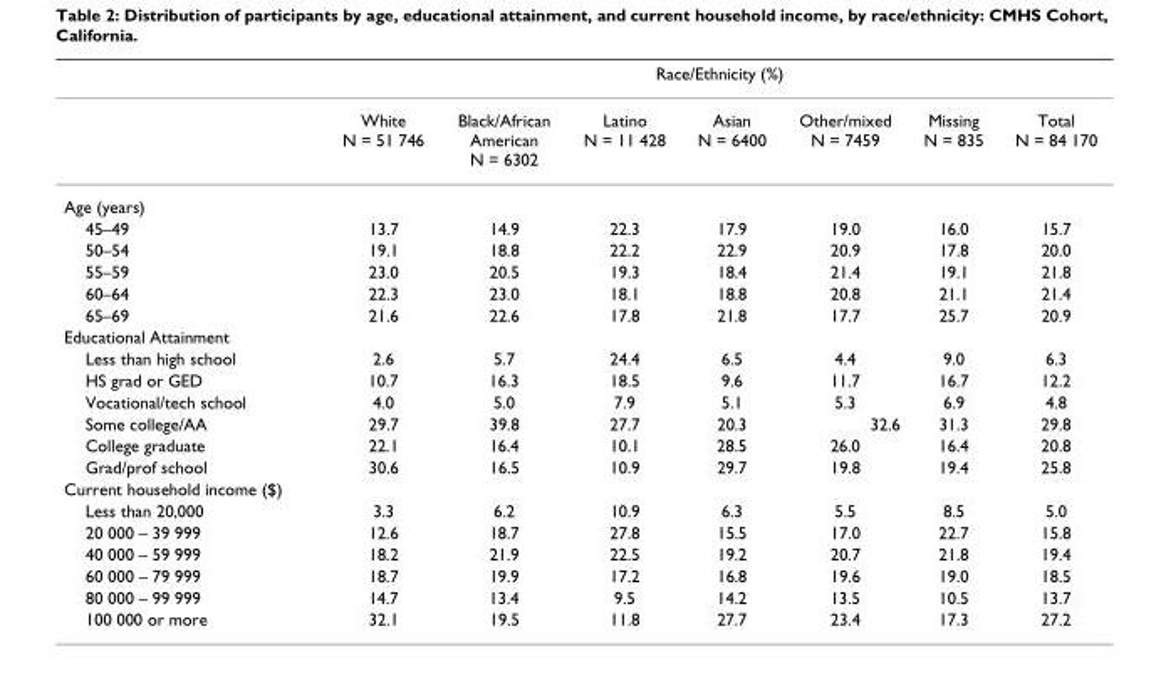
<table><thead><tr><td rowspan="2"></td><td colspan="7">Race/Ethnicity (%)</td></tr><tr><td>White N = 51 746</td><td>Black/African American N = 6302</td><td>Latino N = 11 428</td><td>Asian N = 6400</td><td>Other/mixed N = 7459</td><td>Missing N = 835</td><td>Total N = 84 170</td></tr></thead><tbody><tr><td colspan="8">Age (years)</td></tr><tr><td>45–49</td><td>13.7</td><td>14.9</td><td>22.3</td><td>17.9</td><td>19.0</td><td>16.0</td><td>15.7</td></tr><tr><td>50–54</td><td>19.1</td><td>18.8</td><td>22.2</td><td>22.9</td><td>20.9</td><td>17.8</td><td>20.0</td></tr><tr><td>55–59</td><td>23.0</td><td>20.5</td><td>19.3</td><td>18.4</td><td>21.4</td><td>19.1</td><td>21.8</td></tr><tr><td>60–64</td><td>22.3</td><td>23.0</td><td>18.1</td><td>18.8</td><td>20.8</td><td>21.1</td><td>21.4</td></tr><tr><td>65–69</td><td>21.6</td><td>22.6</td><td>17.8</td><td>21.8</td><td>17.7</td><td>25.7</td><td>20.9</td></tr><tr><td colspan="8">Educational Attainment</td></tr><tr><td>Less than high school</td><td>2.6</td><td>5.7</td><td>24.4</td><td>6.5</td><td>4.4</td><td>9.0</td><td>6.3</td></tr><tr><td>HS grad or GED</td><td>10.7</td><td>16.3</td><td>18.5</td><td>9.6</td><td>11.7</td><td>16.7</td><td>12.2</td></tr><tr><td>Vocational/tech school</td><td>4.0</td><td>5.0</td><td>7.9</td><td>5.1</td><td>5.3</td><td>6.9</td><td>4.8</td></tr><tr><td>Some college/AA</td><td>29.7</td><td>39.8</td><td>27.7</td><td>20.3</td><td>32.6</td><td>31.3</td><td>29.8</td></tr><tr><td>College graduate</td><td>22.1</td><td>16.4</td><td>10.1</td><td>28.5</td><td>26.0</td><td>16.4</td><td>20.8</td></tr><tr><td>Grad/prof school</td><td>30.6</td><td>16.5</td><td>10.9</td><td>29.7</td><td>19.8</td><td>19.4</td><td>25.8</td></tr><tr><td colspan="8">Current household income ($)</td></tr><tr><td>Less than 20,000</td><td>3.3</td><td>6.2</td><td>10.9</td><td>6.3</td><td>5.5</td><td>8.5</td><td>5.0</td></tr><tr><td>20 000 – 39 999</td><td>12.6</td><td>18.7</td><td>27.8</td><td>15.5</td><td>17.0</td><td>22.7</td><td>15.8</td></tr><tr><td>40 000 – 59 999</td><td>18.2</td><td>21.9</td><td>22.5</td><td>19.2</td><td>20.7</td><td>21.8</td><td>19.4</td></tr><tr><td>60 000 – 79 999</td><td>18.7</td><td>19.9</td><td>17.2</td><td>16.8</td><td>19.6</td><td>19.0</td><td>18.5</td></tr><tr><td>80 000 – 99 999</td><td>14.7</td><td>13.4</td><td>9.5</td><td>14.2</td><td>13.5</td><td>10.5</td><td>13.7</td></tr><tr><td>100 000 or more</td><td>32.1</td><td>19.5</td><td>11.8</td><td>27.7</td><td>23.4</td><td>17.3</td><td>27.2</td></tr></tbody></table>